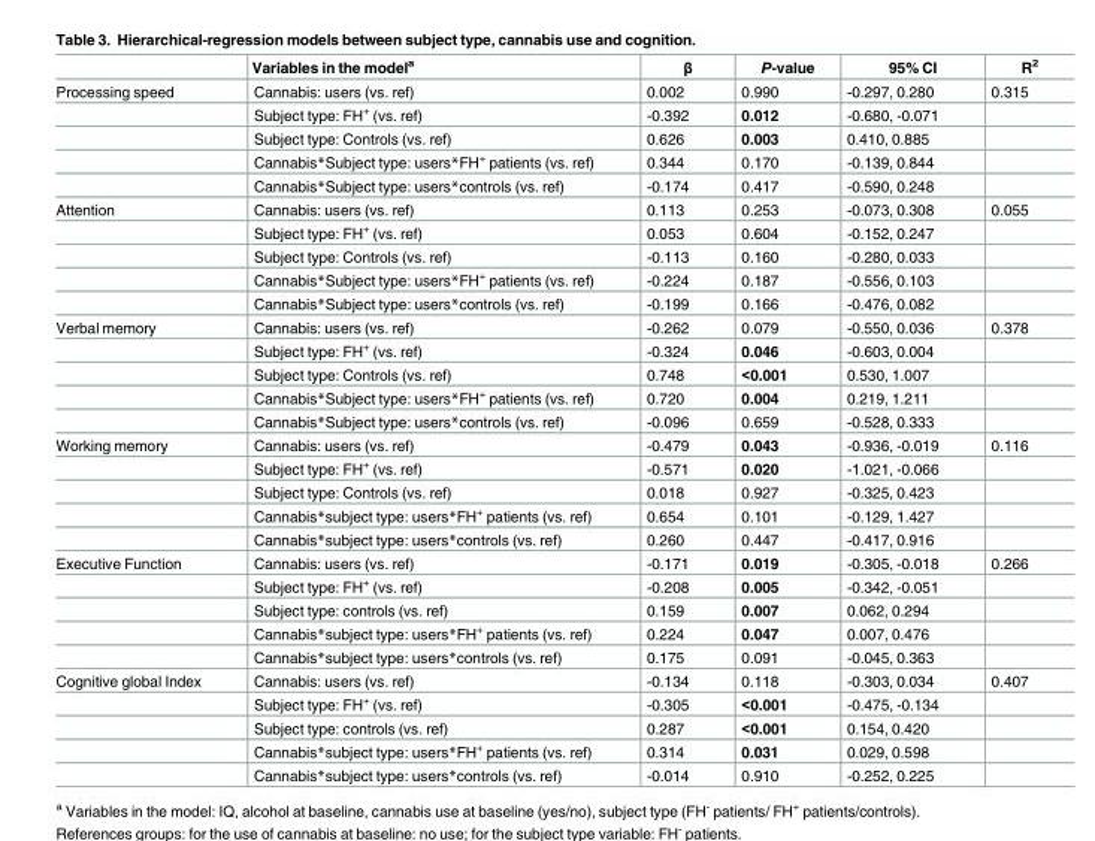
<table><thead><tr><td></td><td>Variables in the model<sup>a</sup></td><td>β</td><td>P-value</td><td>95% CI</td><td>R<sup>2</sup></td></tr></thead><tbody><tr><td rowspan="5">Processing speed</td><td>Cannabis: users (vs. ref)</td><td>0.002</td><td>0.990</td><td>-0.297, 0.280</td><td>0.315</td></tr><tr><td>Subject type: FH<sup>+</sup> (vs. ref)</td><td>-0.392</td><td>0.012</td><td>-0.680, -0.071</td><td></td></tr><tr><td>Subject type: Controls (vs. ref)</td><td>0.626</td><td>0.003</td><td>0.410, 0.885</td><td></td></tr><tr><td>Cannabis*Subject type: users*FH<sup>+</sup> patients (vs. ref)</td><td>0.344</td><td>0.170</td><td>-0.139, 0.844</td><td></td></tr><tr><td>Cannabis*Subject type: users*controls (vs. ref)</td><td>-0.174</td><td>0.417</td><td>-0.590, 0.248</td><td></td></tr><tr><td rowspan="5">Attention</td><td>Cannabis: users (vs. ref)</td><td>0.113</td><td>0.253</td><td>-0.073, 0.308</td><td>0.055</td></tr><tr><td>Subject type: FH<sup>+</sup> (vs. ref)</td><td>0.053</td><td>0.604</td><td>-0.152, 0.247</td><td></td></tr><tr><td>Subject type: Controls (vs. ref)</td><td>-0.113</td><td>0.160</td><td>-0.280, 0.033</td><td></td></tr><tr><td>Cannabis*Subject type: users*FH<sup>+</sup> patients (vs. ref)</td><td>-0.224</td><td>0.187</td><td>-0.556, 0.103</td><td></td></tr><tr><td>Cannabis*Subject type: users*controls (vs. ref)</td><td>-0.199</td><td>0.166</td><td>-0.476, 0.082</td><td></td></tr><tr><td rowspan="5">Verbal memory</td><td>Cannabis: users (vs. ref)</td><td>-0.262</td><td>0.079</td><td>-0.550, 0.036</td><td>0.378</td></tr><tr><td>Subject type: FH<sup>+</sup> (vs. ref)</td><td>-0.324</td><td>0.046</td><td>-0.603, 0.004</td><td></td></tr><tr><td>Subject type: Controls (vs. ref)</td><td>0.748</td><td>&lt;0.001</td><td>0.530, 1.007</td><td></td></tr><tr><td>Cannabis*Subject type: users*FH<sup>+</sup> patients (vs. ref)</td><td>0.720</td><td>0.004</td><td>0.219, 1.211</td><td></td></tr><tr><td>Cannabis*Subject type: users*controls (vs. ref)</td><td>-0.096</td><td>0.659</td><td>-0.528, 0.333</td><td></td></tr><tr><td rowspan="5">Working memory</td><td>Cannabis: users (vs. ref)</td><td>-0.479</td><td>0.043</td><td>-0.936, -0.019</td><td>0.116</td></tr><tr><td>Subject type: FH<sup>+</sup> (vs. ref)</td><td>-0.571</td><td>0.020</td><td>-1.021, -0.066</td><td></td></tr><tr><td>Subject type: Controls (vs. ref)</td><td>0.018</td><td>0.927</td><td>-0.325, 0.423</td><td></td></tr><tr><td>Cannabis*subject type: users*FH<sup>+</sup> patients (vs. ref)</td><td>0.654</td><td>0.101</td><td>-0.129, 1.427</td><td></td></tr><tr><td>Cannabis*subject type: users*controls (vs. ref)</td><td>0.260</td><td>0.447</td><td>-0.417, 0.916</td><td></td></tr><tr><td rowspan="5">Executive Function</td><td>Cannabis: users (vs. ref)</td><td>-0.171</td><td>0.019</td><td>-0.305, -0.018</td><td>0.266</td></tr><tr><td>Subject type: FH<sup>+</sup> (vs. ref)</td><td>-0.208</td><td>0.005</td><td>-0.342, -0.051</td><td></td></tr><tr><td>Subject type: controls (vs. ref)</td><td>0.159</td><td>0.007</td><td>0.062, 0.294</td><td></td></tr><tr><td>Cannabis*subject type: users*FH<sup>+</sup> patients (vs. ref)</td><td>0.224</td><td>0.047</td><td>0.007, 0.476</td><td></td></tr><tr><td>Cannabis*subject type: users*controls (vs. ref)</td><td>0.175</td><td>0.091</td><td>-0.045, 0.363</td><td></td></tr><tr><td rowspan="5">Cognitive global Index</td><td>Cannabis: users (vs. ref)</td><td>-0.134</td><td>0.118</td><td>-0.303, 0.034</td><td>0.407</td></tr><tr><td>Subject type: FH<sup>+</sup> (vs. ref)</td><td>-0.305</td><td>&lt;0.001</td><td>-0.475, -0.134</td><td></td></tr><tr><td>Subject type: controls (vs. ref)</td><td>0.287</td><td>&lt;0.001</td><td>0.154, 0.420</td><td></td></tr><tr><td>Cannabis*subject type: users*FH<sup>+</sup> patients (vs. ref)</td><td>0.314</td><td>0.031</td><td>0.029, 0.598</td><td></td></tr><tr><td>Cannabis*subject type: users*controls (vs. ref)</td><td>-0.014</td><td>0.910</td><td>-0.252, 0.225</td><td></td></tr></tbody></table>